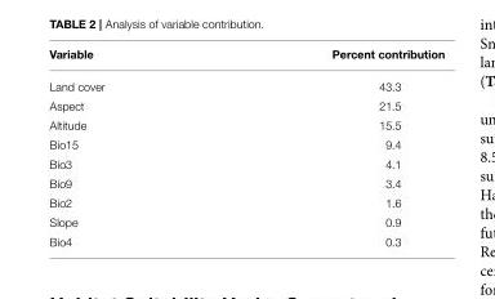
<table><thead><tr><td>Variable</td><td>Percent contribution</td></tr></thead><tbody><tr><td>Land cover</td><td>43.3</td></tr><tr><td>Aspect</td><td>21.5</td></tr><tr><td>Altitude</td><td>15.5</td></tr><tr><td>Bio15</td><td>9.4</td></tr><tr><td>Bio3</td><td>4.1</td></tr><tr><td>Bio9</td><td>3.4</td></tr><tr><td>Bio2</td><td>1.6</td></tr><tr><td>Slope</td><td>0.9</td></tr><tr><td>Bio4</td><td>0.3</td></tr></tbody></table>